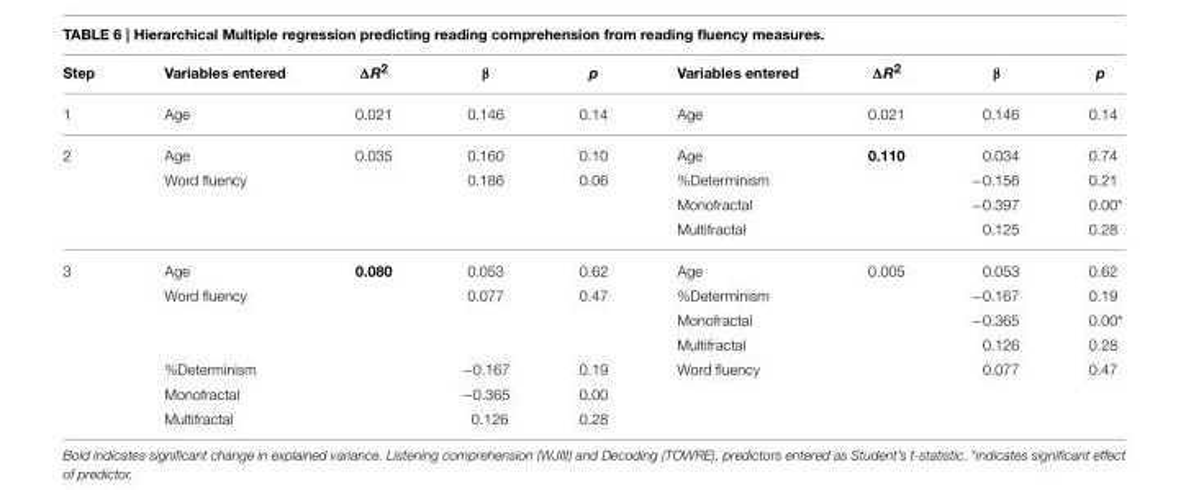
<table><thead><tr><td>Step</td><td>Variables entered</td><td>ΔR<sup>2</sup></td><td>β</td><td>p</td><td>Variables entered</td><td>ΔR<sup>2</sup></td><td>β</td><td>p</td></tr></thead><tbody><tr><td>1</td><td>Age</td><td>0.021</td><td>0.146</td><td>0.14</td><td>Age</td><td>0.021</td><td>0.146</td><td>0.14</td></tr><tr><td rowspan="4">2</td><td>Age</td><td>0.035</td><td>0.160</td><td>0.10</td><td>Age</td><td>0.110</td><td>0.034</td><td>0.74</td></tr><tr><td>Word fluency</td><td></td><td>0.186</td><td>0.06</td><td>%Determinism</td><td></td><td>−0.156</td><td>0.21</td></tr><tr><td></td><td></td><td></td><td></td><td>Monofractal</td><td></td><td>−0.397</td><td>0.00*</td></tr><tr><td></td><td></td><td></td><td></td><td>Multifractal</td><td></td><td>0.125</td><td>0.28</td></tr><tr><td rowspan="7">3</td><td>Age</td><td>0.080</td><td>0.053</td><td>0.62</td><td>Age</td><td>0.005</td><td>0.053</td><td>0.62</td></tr><tr><td>Word fluency</td><td></td><td>0.077</td><td>0.47</td><td>%Determinism</td><td></td><td>−0.167</td><td>0.19</td></tr><tr><td></td><td></td><td></td><td></td><td>Monofractal</td><td></td><td>−0.365</td><td>0.00*</td></tr><tr><td></td><td></td><td></td><td></td><td>Multifractal</td><td></td><td>0.126</td><td>0.28</td></tr><tr><td>%Determinism</td><td></td><td>−0.167</td><td>0.19</td><td>Word fluency</td><td></td><td>0.077</td><td>0.47</td></tr><tr><td>Monofractal</td><td></td><td>−0.365</td><td>0.00</td><td></td><td></td><td></td><td></td></tr><tr><td>Multifractal</td><td></td><td>0.126</td><td>0.28</td><td></td><td></td><td></td><td></td></tr></tbody></table>